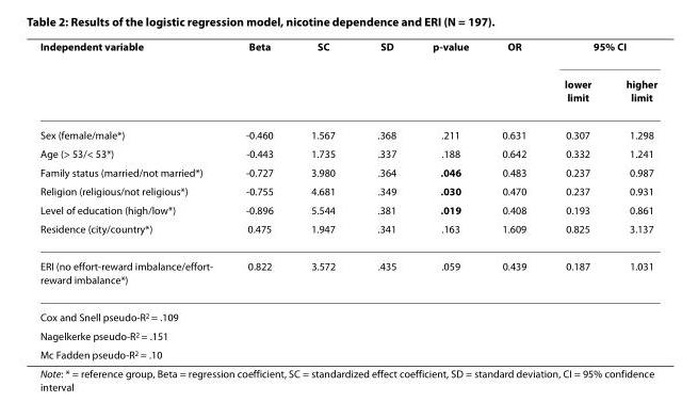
<table><thead><tr><td rowspan="2">Independent variable</td><td rowspan="2">Beta</td><td rowspan="2">SC</td><td rowspan="2">SD</td><td rowspan="2">p-value</td><td rowspan="2">OR</td><td colspan="2">95% CI</td></tr><tr><td>lower limit</td><td>higher limit</td></tr></thead><tbody><tr><td>Sex (female/male*)</td><td>-0.460</td><td>1.567</td><td>.368</td><td>.211</td><td>0.631</td><td>0.307</td><td>1.298</td></tr><tr><td>Age (&gt; 53/&lt; 53*)</td><td>-0.443</td><td>1.735</td><td>.337</td><td>.188</td><td>0.642</td><td>0.332</td><td>1.241</td></tr><tr><td>Family status (married/not married*)</td><td>-0.727</td><td>3.980</td><td>.364</td><td>.046</td><td>0.483</td><td>0.237</td><td>0.987</td></tr><tr><td>Religion (religious/not religious*)</td><td>-0.755</td><td>4.681</td><td>.349</td><td>.030</td><td>0.470</td><td>0.237</td><td>0.931</td></tr><tr><td>Level of education (high/low*)</td><td>-0.896</td><td>5.544</td><td>.381</td><td>.019</td><td>0.408</td><td>0.193</td><td>0.861</td></tr><tr><td>Residence (city/country*)</td><td>0.475</td><td>1.947</td><td>.341</td><td>.163</td><td>1.609</td><td>0.825</td><td>3.137</td></tr><tr><td>ERI (no effort-reward imbalance/effort- reward imbalance*)</td><td>0.822</td><td>3.572</td><td>.435</td><td>.059</td><td>0.439</td><td>0.187</td><td>1.031</td></tr><tr><td colspan="8">Cox and Snell pseudo-R<sup>2</sup> = .109</td></tr><tr><td colspan="8">Nagelkerke pseudo-R<sup>2</sup> = .151</td></tr><tr><td colspan="8">Mc Fadden pseudo-R<sup>2</sup> = .10</td></tr></tbody></table>